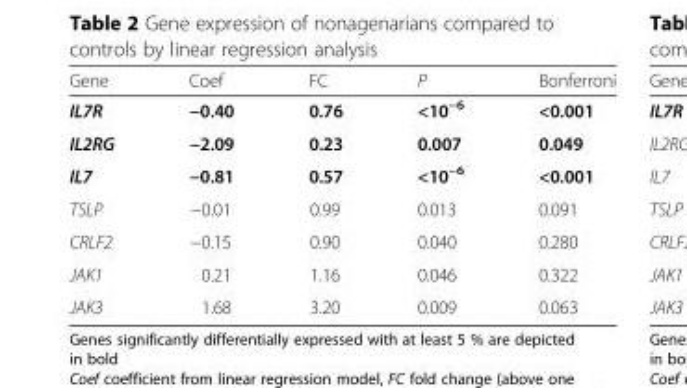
<table><thead><tr><td>Gene</td><td>Coef</td><td>FC</td><td>P</td><td>Bonferroni</td></tr></thead><tbody><tr><td>IL7R</td><td>−0.40</td><td>0.76</td><td>&lt;10<sup>−6</sup></td><td>&lt;0.001</td></tr><tr><td>IL2RG</td><td>−2.09</td><td>0.23</td><td>0.007</td><td>0.049</td></tr><tr><td>IL7</td><td>−0.81</td><td>0.57</td><td>&lt;10<sup>−6</sup></td><td>&lt;0.001</td></tr><tr><td>TSLP</td><td>−0.01</td><td>0.99</td><td>0.013</td><td>0.091</td></tr><tr><td>CRLF2</td><td>−0.15</td><td>0.90</td><td>0.040</td><td>0.280</td></tr><tr><td>JAK1</td><td>0.21</td><td>1.16</td><td>0.046</td><td>0.322</td></tr><tr><td>JAK3</td><td>1.68</td><td>3.20</td><td>0.009</td><td>0.063</td></tr></tbody></table>